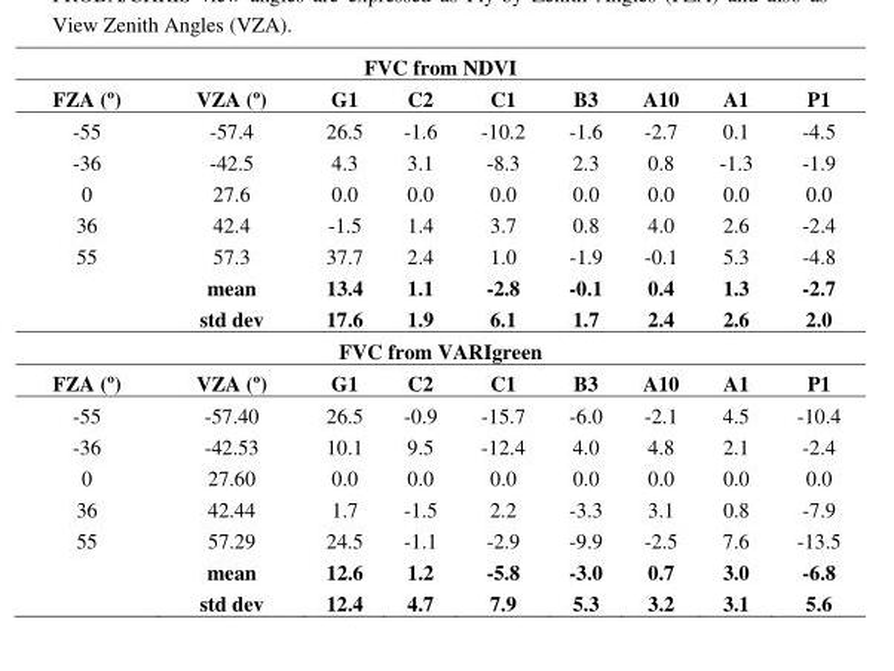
<table><thead><tr><td colspan="9">FVC from NDVI</td></tr><tr><td>FZA (º)</td><td>VZA (º)</td><td>G1</td><td>C2</td><td>C1</td><td>B3</td><td>A10</td><td>A1</td><td>P1</td></tr></thead><tbody><tr><td>-55</td><td>-57.4</td><td>26.5</td><td>-1.6</td><td>-10.2</td><td>-1.6</td><td>-2.7</td><td>0.1</td><td>-4.5</td></tr><tr><td>-36</td><td>-42.5</td><td>4.3</td><td>3.1</td><td>-8.3</td><td>2.3</td><td>0.8</td><td>-1.3</td><td>-1.9</td></tr><tr><td>0</td><td>27.6</td><td>0.0</td><td>0.0</td><td>0.0</td><td>0.0</td><td>0.0</td><td>0.0</td><td>0.0</td></tr><tr><td>36</td><td>42.4</td><td>-1.5</td><td>1.4</td><td>3.7</td><td>0.8</td><td>4.0</td><td>2.6</td><td>-2.4</td></tr><tr><td rowspan="3">55</td><td>57.3</td><td>37.7</td><td>2.4</td><td>1.0</td><td>-1.9</td><td>-0.1</td><td>5.3</td><td>-4.8</td></tr><tr><td>mean</td><td>13.4</td><td>1.1</td><td>-2.8</td><td>-0.1</td><td>0.4</td><td>1.3</td><td>-2.7</td></tr><tr><td>std dev</td><td>17.6</td><td>1.9</td><td>6.1</td><td>1.7</td><td>2.4</td><td>2.6</td><td>2.0</td></tr><tr><td colspan="9">FVC from VARIgreen</td></tr><tr><td>FZA (º)</td><td>VZA (º)</td><td>G1</td><td>C2</td><td>C1</td><td>B3</td><td>A10</td><td>A1</td><td>P1</td></tr><tr><td>-55</td><td>-57.40</td><td>26.5</td><td>-0.9</td><td>-15.7</td><td>-6.0</td><td>-2.1</td><td>4.5</td><td>-10.4</td></tr><tr><td>-36</td><td>-42.53</td><td>10.1</td><td>9.5</td><td>-12.4</td><td>4.0</td><td>4.8</td><td>2.1</td><td>-2.4</td></tr><tr><td>0</td><td>27.60</td><td>0.0</td><td>0.0</td><td>0.0</td><td>0.0</td><td>0.0</td><td>0.0</td><td>0.0</td></tr><tr><td>36</td><td>42.44</td><td>1.7</td><td>-1.5</td><td>2.2</td><td>-3.3</td><td>3.1</td><td>0.8</td><td>-7.9</td></tr><tr><td rowspan="3">55</td><td>57.29</td><td>24.5</td><td>-1.1</td><td>-2.9</td><td>-9.9</td><td>-2.5</td><td>7.6</td><td>-13.5</td></tr><tr><td>mean</td><td>12.6</td><td>1.2</td><td>-5.8</td><td>-3.0</td><td>0.7</td><td>3.0</td><td>-6.8</td></tr><tr><td>std dev</td><td>12.4</td><td>4.7</td><td>7.9</td><td>5.3</td><td>3.2</td><td>3.1</td><td>5.6</td></tr></tbody></table>